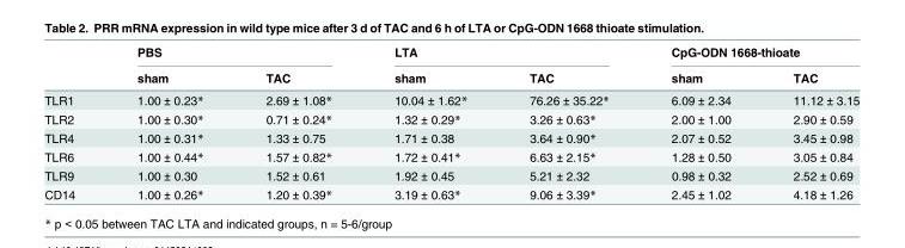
<table><thead><tr><td rowspan="2"></td><td colspan="2">PBS</td><td colspan="2">LTA</td><td colspan="2">CpG-ODN 1668-thioate</td></tr><tr><td>sham</td><td>TAC</td><td>sham</td><td>TAC</td><td>sham</td><td>TAC</td></tr></thead><tbody><tr><td>TLR1</td><td>1.00 ± 0.23*</td><td>2.69 ± 1.08*</td><td>10.04 ± 1.62*</td><td>76.26 ± 35.22*</td><td>6.09 ± 2.34</td><td>11.12 ± 3.15</td></tr><tr><td>TLR2</td><td>1.00 ± 0.30*</td><td>0.71 ± 0.24*</td><td>1.32 ± 0.29*</td><td>3.26 ± 0.63*</td><td>2.00 ± 1.00</td><td>2.90 ± 0.59</td></tr><tr><td>TLR4</td><td>1.00 ± 0.31*</td><td>1.33 ± 0.75</td><td>1.71 ± 0.38</td><td>3.64 ± 0.90*</td><td>2.07 ± 0.52</td><td>3.45 ± 0.98</td></tr><tr><td>TLR6</td><td>1.00 ± 0.44*</td><td>1.57 ± 0.82*</td><td>1.72 ± 0.41*</td><td>6.63 ± 2.15*</td><td>1.28 ± 0.50</td><td>3.05 ± 0.84</td></tr><tr><td>TLR9</td><td>1.00 ± 0.30</td><td>1.52 ± 0.61</td><td>1.92 ± 0.45</td><td>5.21 ± 2.32</td><td>0.98 ± 0.32</td><td>2.52 ± 0.69</td></tr><tr><td>CD14</td><td>1.00 ± 0.26*</td><td>1.20 ± 0.39*</td><td>3.19 ± 0.63*</td><td>9.06 ± 3.39*</td><td>2.45 ± 1.02</td><td>4.18 ± 1.26</td></tr></tbody></table>